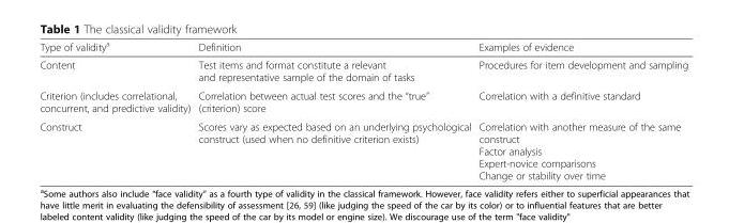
<table><thead><tr><td>Type of validity<sup>a</sup></td><td>Definition</td><td>Examples of evidence</td></tr></thead><tbody><tr><td>Content</td><td>Test items and format constitute a relevant and representative sample of the domain of tasks</td><td>Procedures for item development and sampling</td></tr><tr><td>Criterion (includes correlational, concurrent, and predictive validity)</td><td>Correlation between actual test scores and the “true” (criterion) score</td><td>Correlation with a definitive standard</td></tr><tr><td>Construct</td><td>Scores vary as expected based on an underlying psychological construct (used when no definitive criterion exists)</td><td>Correlation with another measure of the same construct Factor analysis Expert-novice comparisons Change or stability over time</td></tr></tbody></table>